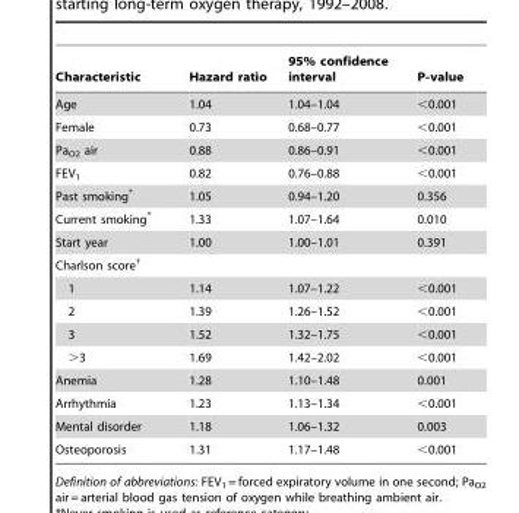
<table><thead><tr><td>Characteristic</td><td>Hazard ratio</td><td>95% confidence interval</td><td>P-value</td></tr></thead><tbody><tr><td>Age</td><td>1.04</td><td>1.04–1.04</td><td>&lt;0.001</td></tr><tr><td>Female</td><td>0.73</td><td>0.68–0.77</td><td>&lt;0.001</td></tr><tr><td>Pa<sub>O2</sub> air</td><td>0.88</td><td>0.86–0.91</td><td>&lt;0.001</td></tr><tr><td>FEV<sub>1</sub></td><td>0.82</td><td>0.76–0.88</td><td>&lt;0.001</td></tr><tr><td>Past smoking*</td><td>1.05</td><td>0.94–1.20</td><td>0.356</td></tr><tr><td>Current smoking*</td><td>1.33</td><td>1.07–1.64</td><td>0.010</td></tr><tr><td>Start year</td><td>1.00</td><td>1.00–1.01</td><td>0.391</td></tr><tr><td colspan="4">Charlson score†</td></tr><tr><td>1</td><td>1.14</td><td>1.07–1.22</td><td>&lt;0.001</td></tr><tr><td>2</td><td>1.39</td><td>1.26–1.52</td><td>&lt;0.001</td></tr><tr><td>3</td><td>1.52</td><td>1.32–1.75</td><td>&lt;0.001</td></tr><tr><td>&gt;3</td><td>1.69</td><td>1.42–2.02</td><td>&lt;0.001</td></tr><tr><td>Anemia</td><td>1.28</td><td>1.10–1.48</td><td>0.001</td></tr><tr><td>Arrhythmia</td><td>1.23</td><td>1.13–1.34</td><td>&lt;0.001</td></tr><tr><td>Mental disorder</td><td>1.18</td><td>1.06–1.32</td><td>0.003</td></tr><tr><td>Osteoporosis</td><td>1.31</td><td>1.17–1.48</td><td>&lt;0.001</td></tr></tbody></table>